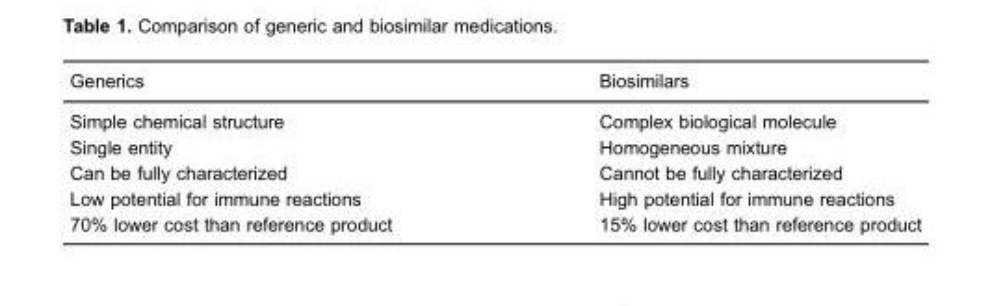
<table><thead><tr><td>Generics</td><td>Biosimilars</td></tr></thead><tbody><tr><td>Simple chemical structure</td><td>Complex biological molecule</td></tr><tr><td>Single entity</td><td>Homogeneous mixture</td></tr><tr><td>Can be fully characterized</td><td>Cannot be fully characterized</td></tr><tr><td>Low potential for immune reactions</td><td>High potential for immune reactions</td></tr><tr><td>70% lower cost than reference product</td><td>15% lower cost than reference product</td></tr></tbody></table>